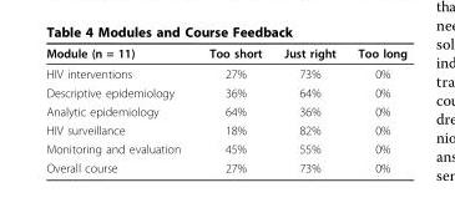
<table><thead><tr><td>Module (n = 11)</td><td>Too short</td><td>Just right</td><td>Too long</td></tr></thead><tbody><tr><td>HIV interventions</td><td>27%</td><td>73%</td><td>0%</td></tr><tr><td>Descriptive epidemiology</td><td>36%</td><td>64%</td><td>0%</td></tr><tr><td>Analytic epidemiology</td><td>64%</td><td>36%</td><td>0%</td></tr><tr><td>HIV surveillance</td><td>18%</td><td>82%</td><td>0%</td></tr><tr><td>Monitoring and evaluation</td><td>45%</td><td>55%</td><td>0%</td></tr><tr><td>Overall course</td><td>27%</td><td>73%</td><td>0%</td></tr></tbody></table>